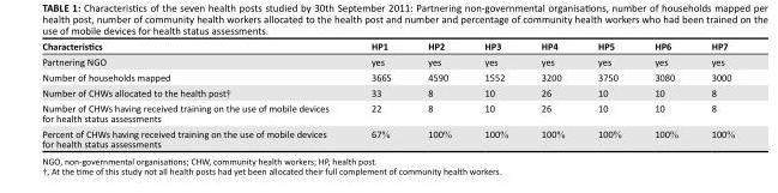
<table><thead><tr><td>Characteristics</td><td>HP1</td><td>HP2</td><td>HP3</td><td>HP4</td><td>HP5</td><td>HP6</td><td>HP7</td></tr></thead><tbody><tr><td>Partnering NGO</td><td>yes</td><td>yes</td><td>yes</td><td>yes</td><td>yes</td><td>yes</td><td>yes</td></tr><tr><td>Number of households mapped</td><td>3665</td><td>4590</td><td>1552</td><td>3200</td><td>3750</td><td>3080</td><td>3000</td></tr><tr><td>Number of CHWs allocated to the health post†</td><td>33</td><td>8</td><td>10</td><td>26</td><td>10</td><td>10</td><td>8</td></tr><tr><td>Number of CHWs having received training on the use of mobile devices for health status assessments</td><td>22</td><td>8</td><td>10</td><td>26</td><td>10</td><td>10</td><td>8</td></tr><tr><td>Percent of CHWs having received training on the use of mobile devices for health status assessments</td><td>67%</td><td>100%</td><td>100%</td><td>100%</td><td>100%</td><td>100%</td><td>100%</td></tr></tbody></table>